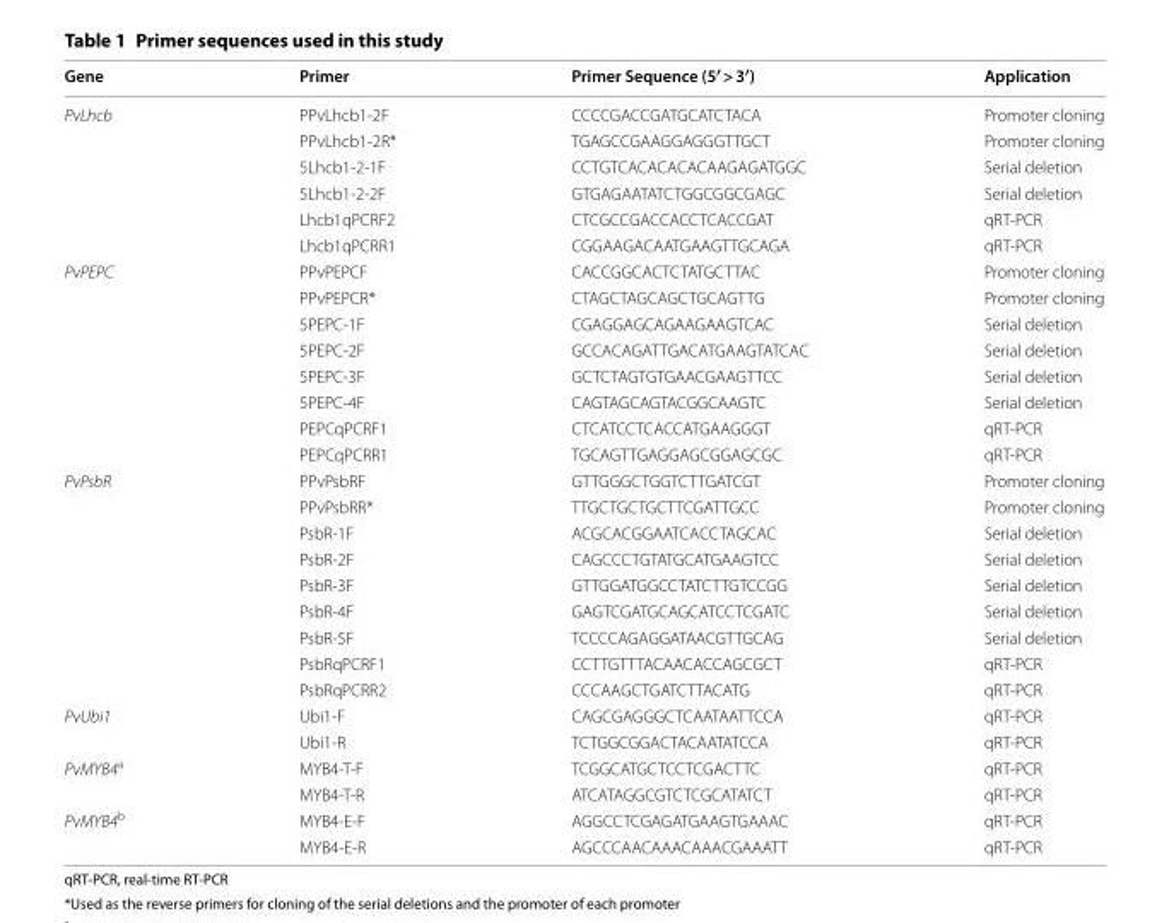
<table><thead><tr><td>Gene</td><td>Primer</td><td>Primer Sequence (5′ &gt; 3′)</td><td>Application</td></tr></thead><tbody><tr><td rowspan="6">PvLhcb</td><td>PPvLhcb1‑2F</td><td>CCC CGA CCG ATG CAT CTA CA</td><td>Promoter cloning</td></tr><tr><td>PPvLhcb1‑2R*</td><td>TGA GCC GAA GGA GGG TTG CT</td><td>Promoter cloning</td></tr><tr><td>5Lhcb1‑2‑1F</td><td>CCT GTC ACA CAC ACA AGA GAT GGC</td><td>Serial deletion</td></tr><tr><td>5Lhcb1‑2‑2F</td><td>GTG AGA ATA TCT GGC GGC GAGC</td><td>Serial deletion</td></tr><tr><td>Lhcb1qPCRF2</td><td>CTC GCC GAC CAC CTC ACC GAT</td><td>qRT‑PCR</td></tr><tr><td>Lhcb1qPCRR1</td><td>CGG AAG ACA ATG AAG TTG CAGA</td><td>qRT‑PCR</td></tr><tr><td rowspan="8">PvPEPC</td><td>PPvPEPCF</td><td>CAC CGG CAC TCT ATG CTT AC</td><td>Promoter cloning</td></tr><tr><td>PPvPEPCR*</td><td>CTA GCT AGC AGC TGC AGT TG</td><td>Promoter cloning</td></tr><tr><td>5PEPC‑1F</td><td>CGA GGA GCA GAA GAA GTC AC</td><td>Serial deletion</td></tr><tr><td>5PEPC‑2F</td><td>GCC ACA GAT TGA CAT GAA GTA TCA C</td><td>Serial deletion</td></tr><tr><td>5PEPC‑3F</td><td>GCT CTA GTG TGA ACG AAG TTCC</td><td>Serial deletion</td></tr><tr><td>5PEPC‑4F</td><td>CAG TAG CAG TAC GGC AAG TC</td><td>Serial deletion</td></tr><tr><td>PEPCqPCRF1</td><td>CTC ATC CTC ACC ATG AAG GGT</td><td>qRT‑PCR</td></tr><tr><td>PEPCqPCRR1</td><td>TGC AGT TGA GGA GCG GAG CGC</td><td>qRT‑PCR</td></tr><tr><td rowspan="9">PvPsbR</td><td>PPvPsbRF</td><td>GTT GGG CTG GTC TTG ATC GT</td><td>Promoter cloning</td></tr><tr><td>PPvPsbRR*</td><td>TTG CTG CTG CTT CGA TTG CC</td><td>Promoter cloning</td></tr><tr><td>PsbR‑1F</td><td>ACG CAC GGA ATC ACC TAG CAC</td><td>Serial deletion</td></tr><tr><td>PsbR‑2F</td><td>CAG CCC TGT ATG CAT GAA GTCC</td><td>Serial deletion</td></tr><tr><td>PsbR‑3F</td><td>GTT GGA TGG CCT ATC TTG TCCGG</td><td>Serial deletion</td></tr><tr><td>PsbR‑4F</td><td>GAG TCG ATG CAG CAT CCT CGATC</td><td>Serial deletion</td></tr><tr><td>PsbR‑5F</td><td>TCC CCA GAG GAT AAC GTT GCAG</td><td>Serial deletion</td></tr><tr><td>PsbRqPCRF1</td><td>CCT TGT TTA CAA CAC CAG CGCT</td><td>qRT‑PCR</td></tr><tr><td>PsbRqPCRR2</td><td>CCC AAG CTG ATC TTA CAT G</td><td>qRT‑PCR</td></tr><tr><td rowspan="2">PvUbi1</td><td>Ubi1‑F</td><td>CAG CGA GGG CTC AAT AAT TCCA</td><td>qRT‑PCR</td></tr><tr><td>Ubi1‑R</td><td>TCT GGC GGA CTA CAA TAT CCA</td><td>qRT‑PCR</td></tr><tr><td rowspan="2">PvMYB4<sup>a</sup></td><td>MYB4‑T‑F</td><td>TCG GCA TGC TCC TCG ACT TC</td><td>qRT‑PCR</td></tr><tr><td>MYB4‑T‑R</td><td>ATC ATA GGC GTC TCG CAT ATCT</td><td>qRT‑PCR</td></tr><tr><td rowspan="2">PvMYB4<sup>b</sup></td><td>MYB4‑E‑F</td><td>AGG CCT CGA GAT GAA GTG AAAC</td><td>qRT‑PCR</td></tr><tr><td>MYB4‑E‑R</td><td>AGC CCA ACA AAC AAA CGA AATT</td><td>qRT‑PCR</td></tr></tbody></table>